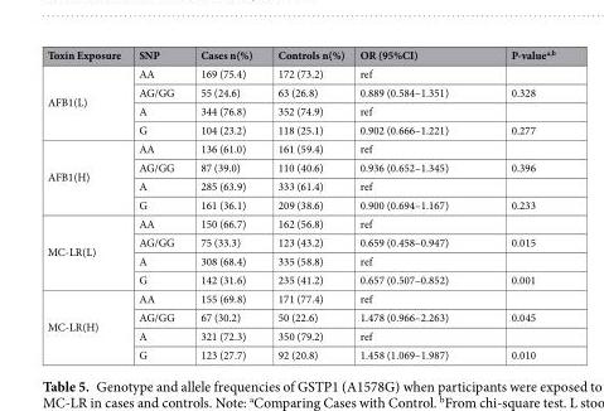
<table><thead><tr><td>Toxin Exposure</td><td>SNP</td><td>Cases n(%)</td><td>Controls n(%)</td><td>OR (95%CI)</td><td>P-value<sup>a,b</sup></td></tr></thead><tbody><tr><td rowspan="4">AFB1(L)</td><td>AA</td><td>169 (75.4)</td><td>172 (73.2)</td><td>ref</td><td></td></tr><tr><td>AG/GG</td><td>55 (24.6)</td><td>63 (26.8)</td><td>0.889 (0.584–1.351)</td><td>0.328</td></tr><tr><td>A</td><td>344 (76.8)</td><td>352 (74.9)</td><td>ref</td><td></td></tr><tr><td>G</td><td>104 (23.2)</td><td>118 (25.1)</td><td>0.902 (0.666–1.221)</td><td>0.277</td></tr><tr><td rowspan="4">AFB1(H)</td><td>AA</td><td>136 (61.0)</td><td>161 (59.4)</td><td>ref</td><td></td></tr><tr><td>AG/GG</td><td>87 (39.0)</td><td>110 (40.6)</td><td>0.936 (0.652–1.345)</td><td>0.396</td></tr><tr><td>A</td><td>285 (63.9)</td><td>333 (61.4)</td><td>ref</td><td></td></tr><tr><td>G</td><td>161 (36.1)</td><td>209 (38.6)</td><td>0.900 (0.694–1.167)</td><td>0.233</td></tr><tr><td rowspan="4">MC-LR(L)</td><td>AA</td><td>150 (66.7)</td><td>162 (56.8)</td><td>ref</td><td></td></tr><tr><td>AG/GG</td><td>75 (33.3)</td><td>123 (43.2)</td><td>0.659 (0.458–0.947)</td><td>0.015</td></tr><tr><td>A</td><td>308 (68.4)</td><td>335 (58.8)</td><td>ref</td><td></td></tr><tr><td>G</td><td>142 (31.6)</td><td>235 (41.2)</td><td>0.657 (0.507–0.852)</td><td>0.001</td></tr><tr><td rowspan="4">MC-LR(H)</td><td>AA</td><td>155 (69.8)</td><td>171 (77.4)</td><td>ref</td><td></td></tr><tr><td>AG/GG</td><td>67 (30.2)</td><td>50 (22.6)</td><td>1.478 (0.966–2.263)</td><td>0.045</td></tr><tr><td>A</td><td>321 (72.3)</td><td>350 (79.2)</td><td>ref</td><td></td></tr><tr><td>G</td><td>123 (27.7)</td><td>92 (20.8)</td><td>1.458 (1.069–1.987)</td><td>0.010</td></tr></tbody></table>